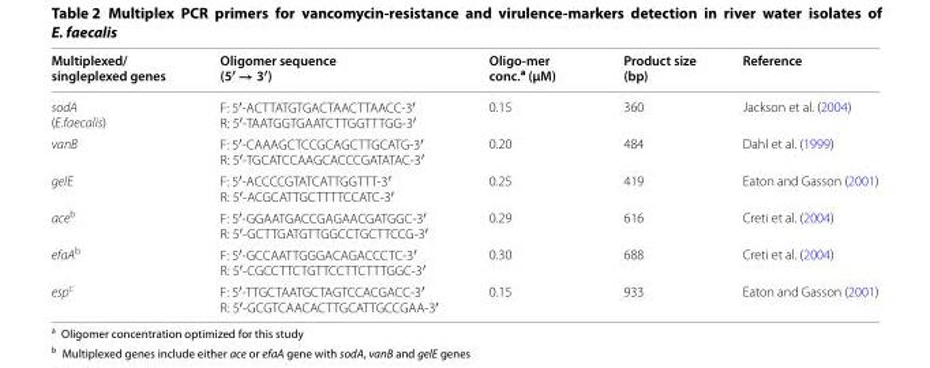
<table><thead><tr><td>Multiplexed/ singleplexed genes</td><td>Oligomer sequence (5′ → 3′)</td><td>Oligo‑mer conc.<sup>a</sup> (µM)</td><td>Product size (bp)</td><td>Reference</td></tr></thead><tbody><tr><td>sodA (E.faecalis)</td><td>F: 5′-ACTTATGTGACTAACTTAACC-3′ R: 5′-TAATGGTGAATCTTGGTTTGG-3′</td><td>0.15</td><td>360</td><td>Jackson et al. (2004)</td></tr><tr><td>vanB</td><td>F: 5′-CAAAGCTCCGCAGCTTGCATG-3′ R: 5′-TGCATCCAAGCACCCGATATAC-3′</td><td>0.20</td><td>484</td><td>Dahl et al. (1999)</td></tr><tr><td>gelE</td><td>F: 5′-ACCCCGTATCATTGGTTT-3′ R: 5′-ACGCATTGCTTTTCCATC-3′</td><td>0.25</td><td>419</td><td>Eaton and Gasson (2001)</td></tr><tr><td>ace<sup>b</sup></td><td>F: 5′-GGAATGACCGAGAACGATGGC-3′ R: 5′-GCTTGATGTTGGCCTGCTTCCG-3′</td><td>0.29</td><td>616</td><td>Creti et al. (2004)</td></tr><tr><td>efaA<sup>b</sup></td><td>F: 5′-GCCAATTGGGACAGACCCTC-3′ R: 5′-CGCCTTCTGTTCCTTCTTTGGC-3′</td><td>0.30</td><td>688</td><td>Creti et al. (2004)</td></tr><tr><td>esp<sup>c</sup></td><td>F: 5′-TTGCTAATGCTAGTCCACGACC-3′ R: 5′-GCGTCAACACTTGCATTGCCGAA-3′</td><td>0.15</td><td>933</td><td>Eaton and Gasson (2001)</td></tr></tbody></table>